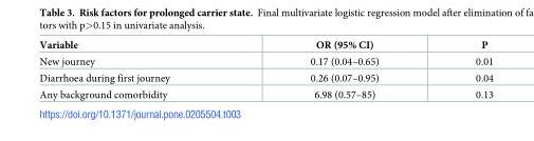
<table><thead><tr><td>Variable</td><td>OR (95% CI)</td><td>P</td></tr></thead><tbody><tr><td>New journey</td><td>0.17 (0.04–0.65)</td><td>0.01</td></tr><tr><td>Diarrhoea during first journey</td><td>0.26 (0.07–0.95)</td><td>0.04</td></tr><tr><td>Any background comorbidity</td><td>6.98 (0.57–85)</td><td>0.13</td></tr></tbody></table>